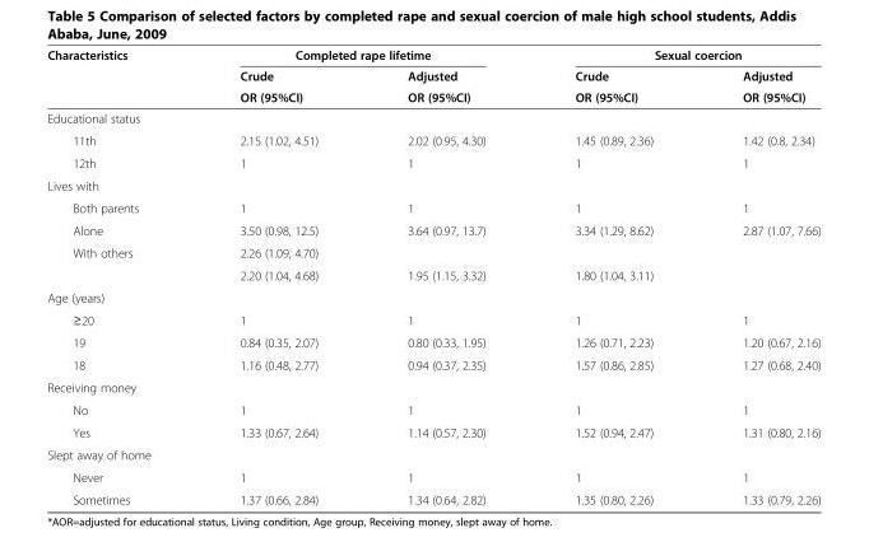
<table><thead><tr><td rowspan="3">Characteristics</td><td colspan="2">Completed rape lifetime</td><td colspan="2">Sexual coercion</td></tr><tr><td rowspan="2">Crude OR (95%CI)</td><td rowspan="2">Adjusted OR (95%CI)</td><td rowspan="2">Crude OR (95%CI)</td><td rowspan="2">Adjusted OR (95%CI)</td></tr><tr></tr></thead><tbody><tr><td colspan="5">Educational status</td></tr><tr><td>11th</td><td>2.15 (1.02, 4.51)</td><td>2.02 (0.95, 4.30)</td><td>1.45 (0.89, 2.36)</td><td>1.42 (0.8, 2.34)</td></tr><tr><td>12th</td><td>1</td><td>1</td><td>1</td><td>1</td></tr><tr><td colspan="5">Lives with</td></tr><tr><td>Both parents</td><td>1</td><td>1</td><td>1</td><td>1</td></tr><tr><td>Alone</td><td>3.50 (0.98, 12.5)</td><td>3.64 (0.97, 13.7)</td><td>3.34 (1.29, 8.62)</td><td>2.87 (1.07, 7.66)</td></tr><tr><td rowspan="2">With others</td><td>2.26 (1.09, 4.70)</td><td></td><td></td><td></td></tr><tr><td>2.20 (1.04, 4.68)</td><td>1.95 (1.15, 3.32)</td><td>1.80 (1.04, 3.11)</td><td></td></tr><tr><td colspan="5">Age (years)</td></tr><tr><td>≥20</td><td>1</td><td>1</td><td>1</td><td>1</td></tr><tr><td>19</td><td>0.84 (0.35, 2.07)</td><td>0.80 (0.33, 1.95)</td><td>1.26 (0.71, 2.23)</td><td>1.20 (0.67, 2.16)</td></tr><tr><td>18</td><td>1.16 (0.48, 2.77)</td><td>0.94 (0.37, 2.35)</td><td>1.57 (0.86, 2.85)</td><td>1.27 (0.68, 2.40)</td></tr><tr><td colspan="5">Receiving money</td></tr><tr><td>No</td><td>1</td><td>1</td><td>1</td><td>1</td></tr><tr><td>Yes</td><td>1.33 (0.67, 2.64)</td><td>1.14 (0.57, 2.30)</td><td>1.52 (0.94, 2.47)</td><td>1.31 (0.80, 2.16)</td></tr><tr><td colspan="5">Slept away of home</td></tr><tr><td>Never</td><td>1</td><td>1</td><td>1</td><td>1</td></tr><tr><td>Sometimes</td><td>1.37 (0.66, 2.84)</td><td>1.34 (0.64, 2.82)</td><td>1.35 (0.80, 2.26)</td><td>1.33 (0.79, 2.26)</td></tr></tbody></table>